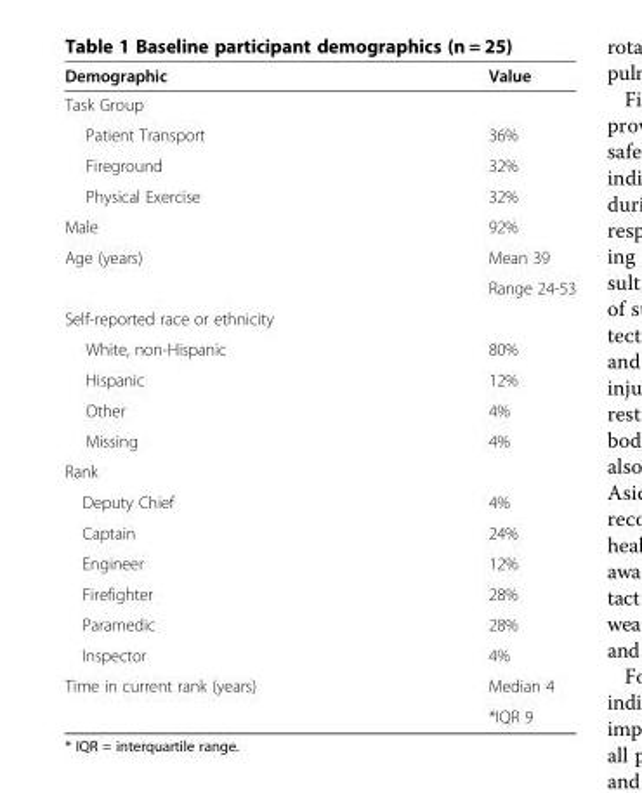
<table><thead><tr><td>Demographic</td><td>Value</td></tr></thead><tbody><tr><td colspan="2">Task Group</td></tr><tr><td>Patient Transport</td><td>36%</td></tr><tr><td>Fireground</td><td>32%</td></tr><tr><td>Physical Exercise</td><td>32%</td></tr><tr><td>Male</td><td>92%</td></tr><tr><td rowspan="2">Age (years)</td><td>Mean 39</td></tr><tr><td>Range 24-53</td></tr><tr><td colspan="2">Self-reported race or ethnicity</td></tr><tr><td>White, non-Hispanic</td><td>80%</td></tr><tr><td>Hispanic</td><td>12%</td></tr><tr><td>Other</td><td>4%</td></tr><tr><td>Missing</td><td>4%</td></tr><tr><td colspan="2">Rank</td></tr><tr><td>Deputy Chief</td><td>4%</td></tr><tr><td>Captain</td><td>24%</td></tr><tr><td>Engineer</td><td>12%</td></tr><tr><td>Firefighter</td><td>28%</td></tr><tr><td>Paramedic</td><td>28%</td></tr><tr><td>Inspector</td><td>4%</td></tr><tr><td rowspan="2">Time in current rank (years)</td><td>Median 4</td></tr><tr><td>*IQR 9</td></tr></tbody></table>